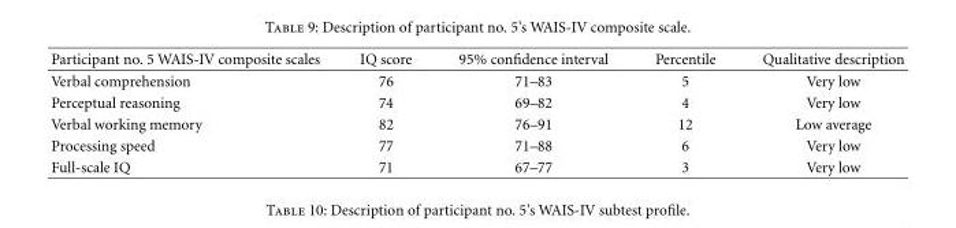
<table><thead><tr><td>Participant no. 5 WAIS-IV composite scales</td><td>IQ score</td><td>95% confidence interval</td><td>Percentile</td><td>Qualitative description</td></tr></thead><tbody><tr><td>Verbal comprehension</td><td>76</td><td>71–83</td><td>5</td><td>Very low</td></tr><tr><td>Perceptual reasoning</td><td>74</td><td>69–82</td><td>4</td><td>Very low</td></tr><tr><td>Verbal working memory</td><td>82</td><td>76–91</td><td>12</td><td>Low average</td></tr><tr><td>Processing speed</td><td>77</td><td>71–88</td><td>6</td><td>Very low</td></tr><tr><td>Full-scale IQ</td><td>71</td><td>67–77</td><td>3</td><td>Very low</td></tr></tbody></table>